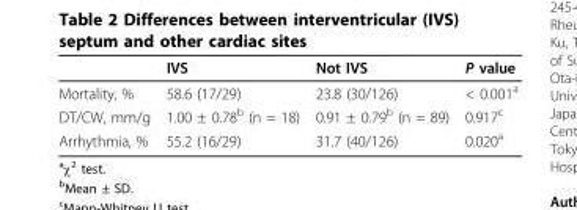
<table><thead><tr><td></td><td>IVS</td><td>Not IVS</td><td>P value</td></tr></thead><tbody><tr><td>Mortality, %</td><td>58.6 (17/29)</td><td>23.8 (30/126)</td><td>&lt; 0.001<sup>a</sup></td></tr><tr><td>DT/CW, mm/g</td><td>1.00 ± 0.78<sup>b</sup> (n = 18)</td><td>0.91 ± 0.79<sup>b</sup> (n = 89)</td><td>0.917<sup>c</sup></td></tr><tr><td>Arrhythmia, %</td><td>55.2 (16/29)</td><td>31.7 (40/126)</td><td>0.020<sup>a</sup></td></tr></tbody></table>